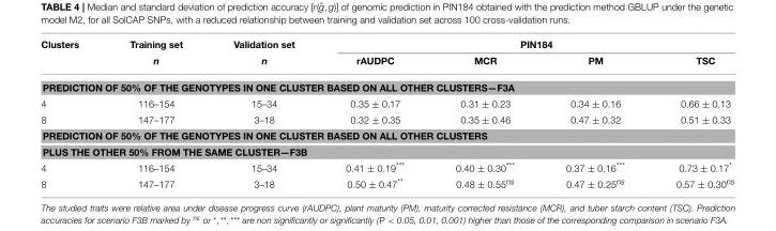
<table><thead><tr><td rowspan="2">Clusters</td><td rowspan="2">Training set n</td><td rowspan="2">Validation set n</td><td colspan="4">PIN184</td></tr><tr><td>rAUDPC</td><td>MCR</td><td>PM</td><td>TSC</td></tr></thead><tbody><tr><td colspan="7">PREDICTION OF 50% OF THE GENOTYPES IN ONE CLUSTER BASED ON ALL OTHER CLUSTERS—F3A</td></tr><tr><td>4</td><td>116–154</td><td>15–34</td><td>0.35 ± 0.17</td><td>0.31 ± 0.23</td><td>0.34 ± 0.16</td><td>0.66 ± 0.13</td></tr><tr><td>8</td><td>147–177</td><td>3–18</td><td>0.32 ± 0.35</td><td>0.35 ± 0.46</td><td>0.47 ± 0.32</td><td>0.51 ± 0.33</td></tr><tr><td colspan="7">PREDICTION OF 50% OF THE GENOTYPES IN ONE CLUSTER BASED ON ALL OTHER CLUSTERS</td></tr><tr><td colspan="7">PLUS THE OTHER 50% FROM THE SAME CLUSTER—F3B</td></tr><tr><td>4</td><td>116–154</td><td>15–34</td><td>0.41 ± 0.19***</td><td>0.40 ± 0.30***</td><td>0.37 ± 0.16***</td><td>0.73 ± 0.17*</td></tr><tr><td>8</td><td>147–177</td><td>3–18</td><td>0.50 ± 0.47**</td><td>0.48 ± 0.55<sup>ns</sup></td><td>0.47 ± 0.25<sup>ns</sup></td><td>0.57 ± 0.30<sup>ns</sup></td></tr></tbody></table>